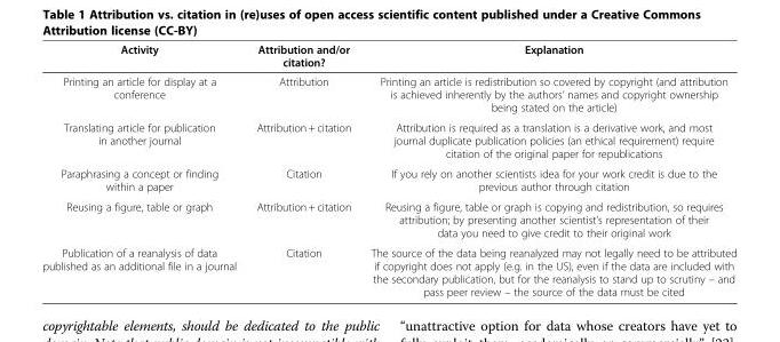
<table><thead><tr><td>Activity</td><td>Attribution and/or citation?</td><td>Explanation</td></tr></thead><tbody><tr><td>Printing an article for display at a conference</td><td>Attribution</td><td>Printing an article is redistribution so covered by copyright (and attribution is achieved inherently by the authors’ names and copyright ownership being stated on the article)</td></tr><tr><td>Translating article for publication in another journal</td><td>Attribution + citation</td><td>Attribution is required as a translation is a derivative work, and most journal duplicate publication policies (an ethical requirement) require citation of the original paper for republications</td></tr><tr><td>Paraphrasing a concept or finding within a paper</td><td>Citation</td><td>If you rely on another scientists idea for your work credit is due to the previous author through citation</td></tr><tr><td>Reusing a figure, table or graph</td><td>Attribution + citation</td><td>Reusing a figure, table or graph is copying and redistribution, so requires attribution; by presenting another scientist’s representation of their data you need to give credit to their original work</td></tr><tr><td>Publication of a reanalysis of data published as an additional file in a journal</td><td>Citation</td><td>The source of the data being reanalyzed may not legally need to be attributed if copyright does not apply (e.g. in the US), even if the data are included with the secondary publication, but for the reanalysis to stand up to scrutiny – and pass peer review – the source of the data must be cited</td></tr></tbody></table>